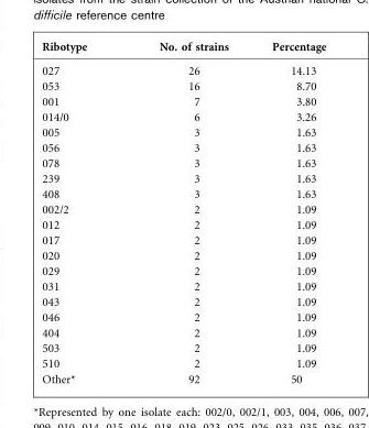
<table><thead><tr><td>Ribotype</td><td>No. of strains</td><td>Percentage</td></tr></thead><tbody><tr><td>027</td><td>26</td><td>14.13</td></tr><tr><td>053</td><td>16</td><td>8.70</td></tr><tr><td>001</td><td>7</td><td>3.80</td></tr><tr><td>014/0</td><td>6</td><td>3.26</td></tr><tr><td>005</td><td>3</td><td>1.63</td></tr><tr><td>056</td><td>3</td><td>1.63</td></tr><tr><td>078</td><td>3</td><td>1.63</td></tr><tr><td>239</td><td>3</td><td>1.63</td></tr><tr><td>408</td><td>3</td><td>1.63</td></tr><tr><td>002/2</td><td>2</td><td>1.09</td></tr><tr><td>012</td><td>2</td><td>1.09</td></tr><tr><td>017</td><td>2</td><td>1.09</td></tr><tr><td>020</td><td>2</td><td>1.09</td></tr><tr><td>029</td><td>2</td><td>1.09</td></tr><tr><td>031</td><td>2</td><td>1.09</td></tr><tr><td>043</td><td>2</td><td>1.09</td></tr><tr><td>046</td><td>2</td><td>1.09</td></tr><tr><td>404</td><td>2</td><td>1.09</td></tr><tr><td>503</td><td>2</td><td>1.09</td></tr><tr><td>510</td><td>2</td><td>1.09</td></tr><tr><td>Other*</td><td>92</td><td>50</td></tr></tbody></table>